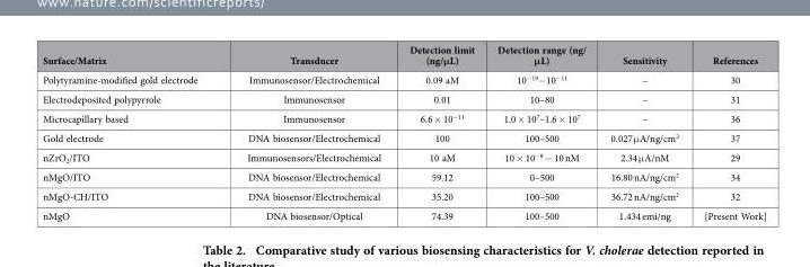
<table><thead><tr><td>Surface/Matrix</td><td>Transducer</td><td>Detection limit (ng/μL)</td><td>Detection range (ng/ μL)</td><td>Sensitivity</td><td>References</td></tr></thead><tbody><tr><td>Polytyramine-modified gold electrode</td><td>Immunosensor/Electrochemical</td><td>0.09 aM</td><td>10<sup>−19</sup>− 10<sup>−11</sup></td><td>–</td><td>30</td></tr><tr><td>Electrodeposited polypyrrole</td><td>Immunosensor</td><td>0.01</td><td>10–80</td><td>–</td><td>31</td></tr><tr><td>Microcapillary based</td><td>Immunosensor</td><td>6.6 × 10<sup>−11</sup></td><td>1.0 × 10<sup>7</sup>–1.6 × 10<sup>7</sup></td><td>–</td><td>36</td></tr><tr><td>Gold electrode</td><td>DNA biosensor/Electrochemical</td><td>100</td><td>100–500</td><td>0.027 μ A/ng/cm<sup>2</sup></td><td>37</td></tr><tr><td>nZrO<sub>2</sub>/ITO</td><td>Immunosensors/Electrochemical</td><td>10 aM</td><td>10 × 10<sup>−8</sup> − 10 nM</td><td>2.34 μ A/nM</td><td>29</td></tr><tr><td>nMgO/ITO</td><td>DNA biosensor/Electrochemical</td><td>59.12</td><td>0–500</td><td>16.80 nA/ng/cm<sup>2</sup></td><td>34</td></tr><tr><td>nMgO-CH/ITO</td><td>DNA biosensor/Electrochemical</td><td>35.20</td><td>100–500</td><td>36.72 nA/ng/cm<sup>2</sup></td><td>32</td></tr><tr><td>nMgO</td><td>DNA biosensor/Optical</td><td>74.39</td><td>100–500</td><td>1.434 emi/ng</td><td>[Present Work]</td></tr></tbody></table>